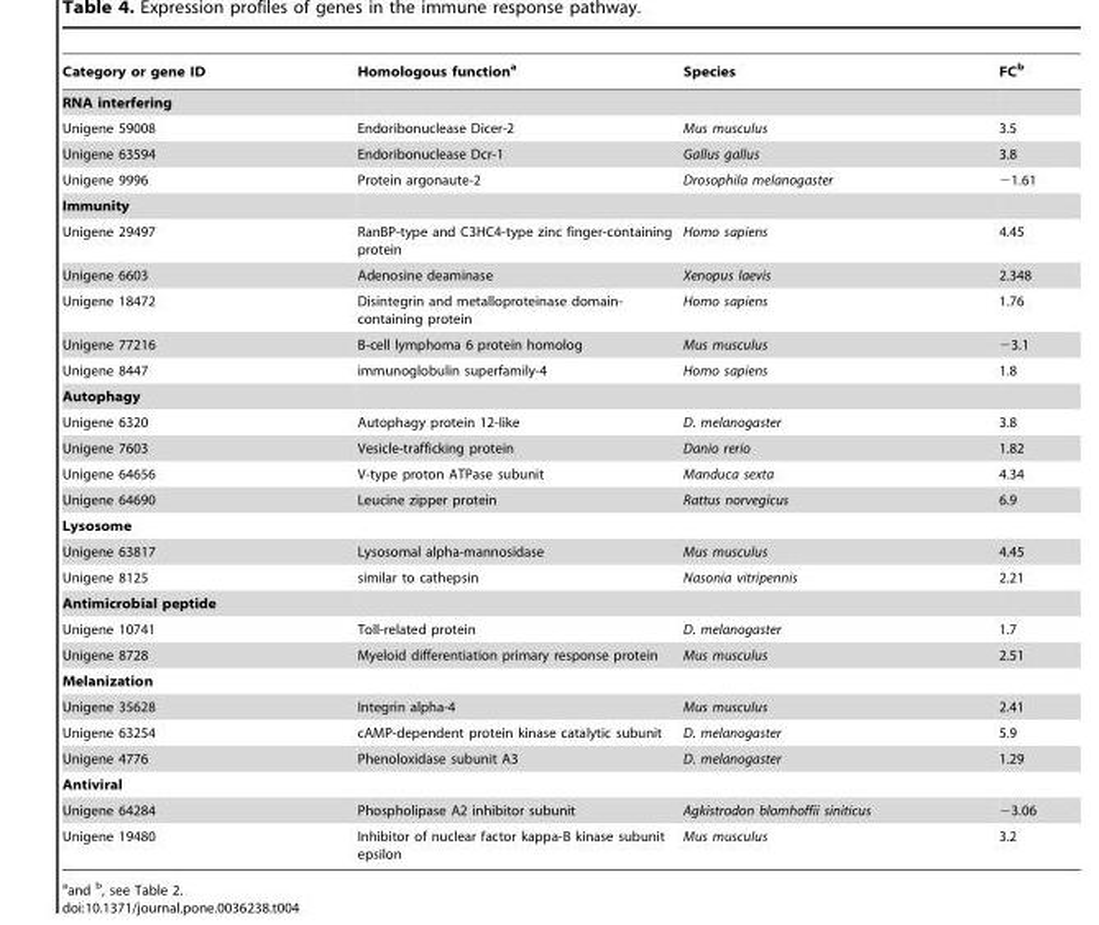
<table><thead><tr><td>Category or gene ID</td><td>Homologous function<sup>a</sup></td><td>Species</td><td>FC<sup>b</sup></td></tr></thead><tbody><tr><td colspan="4">RNA interfering</td></tr><tr><td>Unigene 59008</td><td>Endoribonuclease Dicer-2</td><td>Mus musculus</td><td>3.5</td></tr><tr><td>Unigene 63594</td><td>Endoribonuclease Dcr-1</td><td>Gallus gallus</td><td>3.8</td></tr><tr><td>Unigene 9996</td><td>Protein argonaute-2</td><td>Drosophila melanogaster</td><td>−1.61</td></tr><tr><td colspan="4">Immunity</td></tr><tr><td>Unigene 29497</td><td>RanBP-type and C3HC4-type zinc finger-containing protein</td><td>Homo sapiens</td><td>4.45</td></tr><tr><td>Unigene 6603</td><td>Adenosine deaminase</td><td>Xenopus laevis</td><td>2.348</td></tr><tr><td>Unigene 18472</td><td>Disintegrin and metalloproteinase domain- containing protein</td><td>Homo sapiens</td><td>1.76</td></tr><tr><td>Unigene 77216</td><td>B-cell lymphoma 6 protein homolog</td><td>Mus musculus</td><td>−3.1</td></tr><tr><td>Unigene 8447</td><td>immunoglobulin superfamily-4</td><td>Homo sapiens</td><td>1.8</td></tr><tr><td colspan="4">Autophagy</td></tr><tr><td>Unigene 6320</td><td>Autophagy protein 12-like</td><td>D. melanogaster</td><td>3.8</td></tr><tr><td>Unigene 7603</td><td>Vesicle-trafficking protein</td><td>Danio rerio</td><td>1.82</td></tr><tr><td>Unigene 64656</td><td>V-type proton ATPase subunit</td><td>Manduca sexta</td><td>4.34</td></tr><tr><td>Unigene 64690</td><td>Leucine zipper protein</td><td>Rattus norvegicus</td><td>6.9</td></tr><tr><td colspan="4">Lysosome</td></tr><tr><td>Unigene 63817</td><td>Lysosomal alpha-mannosidase</td><td>Mus musculus</td><td>4.45</td></tr><tr><td>Unigene 8125</td><td>similar to cathepsin</td><td>Nasonia vitripennis</td><td>2.21</td></tr><tr><td colspan="4">Antimicrobial peptide</td></tr><tr><td>Unigene 10741</td><td>Toll-related protein</td><td>D. melanogaster</td><td>1.7</td></tr><tr><td>Unigene 8728</td><td>Myeloid differentiation primary response protein</td><td>Mus musculus</td><td>2.51</td></tr><tr><td colspan="4">Melanization</td></tr><tr><td>Unigene 35628</td><td>Integrin alpha-4</td><td>Mus musculus</td><td>2.41</td></tr><tr><td>Unigene 63254</td><td>cAMP-dependent protein kinase catalytic subunit</td><td>D. melanogaster</td><td>5.9</td></tr><tr><td>Unigene 4776</td><td>Phenoloxidase subunit A3</td><td>D. melanogaster</td><td>1.29</td></tr><tr><td colspan="4">Antiviral</td></tr><tr><td>Unigene 64284</td><td>Phospholipase A2 inhibitor subunit</td><td>Agkistrodon blomhoffii siniticus</td><td>−3.06</td></tr><tr><td>Unigene 19480</td><td>Inhibitor of nuclear factor kappa-B kinase subunit epsilon</td><td>Mus musculus</td><td>3.2</td></tr></tbody></table>